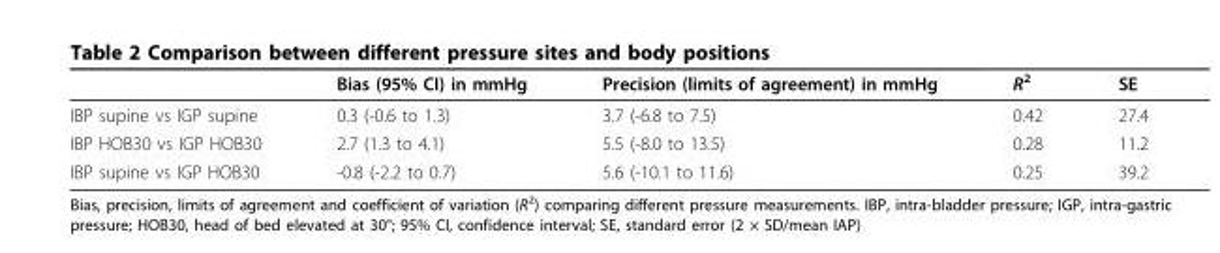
<table><thead><tr><td></td><td>Bias (95% CI) in mmHg</td><td>Precision (limits of agreement) in mmHg</td><td>R<sup>2</sup></td><td>SE</td></tr></thead><tbody><tr><td>IBP supine vs IGP supine</td><td>0.3 (-0.6 to 1.3)</td><td>3.7 (-6.8 to 7.5)</td><td>0.42</td><td>27.4</td></tr><tr><td>IBP HOB30 vs IGP HOB30</td><td>2.7 (1.3 to 4.1)</td><td>5.5 (-8.0 to 13.5)</td><td>0.28</td><td>11.2</td></tr><tr><td>IBP supine vs IGP HOB30</td><td>-0.8 (-2.2 to 0.7)</td><td>5.6 (-10.1 to 11.6)</td><td>0.25</td><td>39.2</td></tr></tbody></table>